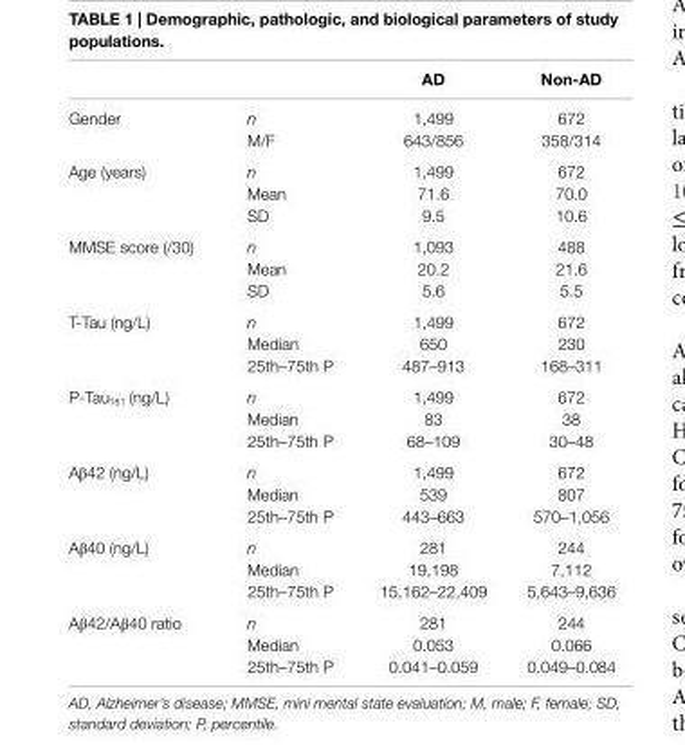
<table><thead><tr><td></td><td></td><td>aD</td><td>non-aD</td></tr></thead><tbody><tr><td rowspan="2">Gender</td><td>n</td><td>1,499</td><td>672</td></tr><tr><td>M/F</td><td>643/856</td><td>358/314</td></tr><tr><td rowspan="3">Age (years)</td><td>n</td><td>1,499</td><td>672</td></tr><tr><td>Mean</td><td>71.6</td><td>70.0</td></tr><tr><td>SD</td><td>9.5</td><td>10.6</td></tr><tr><td rowspan="3">MMSE score (/30)</td><td>n</td><td>1,093</td><td>488</td></tr><tr><td>Mean</td><td>20.2</td><td>21.6</td></tr><tr><td>SD</td><td>5.6</td><td>5.5</td></tr><tr><td rowspan="3">T-Tau (ng/L)</td><td>n</td><td>1,499</td><td>672</td></tr><tr><td>Median</td><td>650</td><td>230</td></tr><tr><td>25th–75th P</td><td>487–913</td><td>168–311</td></tr><tr><td rowspan="3">P-Tau<sub>181</sub> (ng/L)</td><td>n</td><td>1,499</td><td>672</td></tr><tr><td>Median</td><td>83</td><td>38</td></tr><tr><td>25th–75th P</td><td>68–109</td><td>30–48</td></tr><tr><td rowspan="3">Aβ42 (ng/L)</td><td>n</td><td>1,499</td><td>672</td></tr><tr><td>Median</td><td>539</td><td>807</td></tr><tr><td>25th–75th P</td><td>443–663</td><td>570–1,056</td></tr><tr><td rowspan="3">Aβ40 (ng/L)</td><td>n</td><td>281</td><td>244</td></tr><tr><td>Median</td><td>19,198</td><td>7,112</td></tr><tr><td>25th–75th P</td><td>15,162–22,409</td><td>5,643–9,636</td></tr><tr><td rowspan="3">Aβ42/Aβ40 ratio</td><td>n</td><td>281</td><td>244</td></tr><tr><td>Median</td><td>0.053</td><td>0.066</td></tr><tr><td>25th–75th P</td><td>0.041–0.059</td><td>0.049–0.084</td></tr></tbody></table>